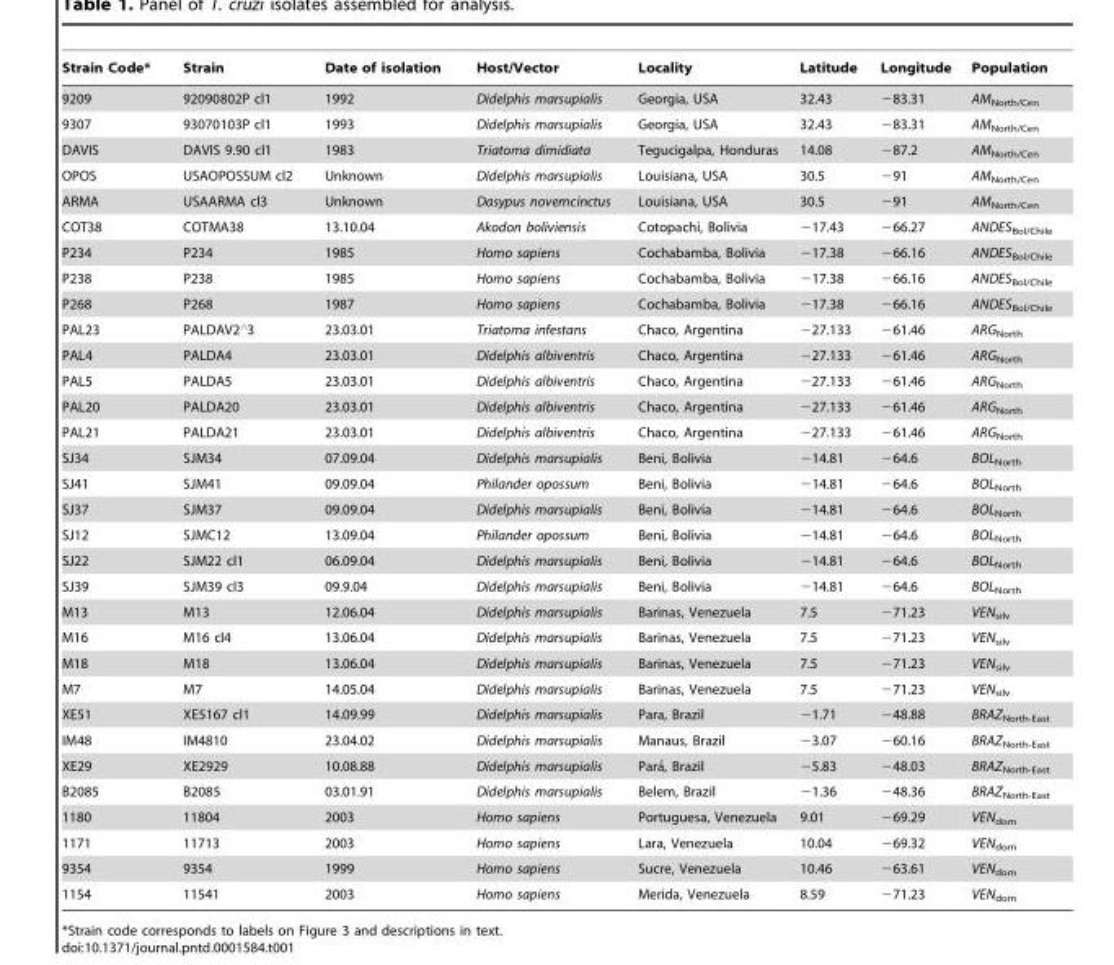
<table><thead><tr><td>Strain Code*</td><td>Strain</td><td>Date of isolation</td><td>Host/Vector</td><td>Locality</td><td>Latitude</td><td>Longitude</td><td>Population</td></tr></thead><tbody><tr><td>9209</td><td>92090802P cl1</td><td>1992</td><td>Didelphis marsupialis</td><td>Georgia, USA</td><td>32.43</td><td>−83.31</td><td>AM<sub>North/Cen</sub></td></tr><tr><td>9307</td><td>93070103P cl1</td><td>1993</td><td>Didelphis marsupialis</td><td>Georgia, USA</td><td>32.43</td><td>−83.31</td><td>AM<sub>North/Cen</sub></td></tr><tr><td>DAVIS</td><td>DAVIS 9.90 cl1</td><td>1983</td><td>Triatoma dimidiata</td><td>Tegucigalpa, Honduras</td><td>14.08</td><td>−87.2</td><td>AM<sub>North/Cen</sub></td></tr><tr><td>OPOS</td><td>USAOPOSSUM cl2</td><td>Unknown</td><td>Didelphis marsupialis</td><td>Louisiana, USA</td><td>30.5</td><td>−91</td><td>AM<sub>North/Cen</sub></td></tr><tr><td>ARMA</td><td>USAARMA cl3</td><td>Unknown</td><td>Dasypus novemcinctus</td><td>Louisiana, USA</td><td>30.5</td><td>−91</td><td>AM<sub>North/Cen</sub></td></tr><tr><td>COT38</td><td>COTMA38</td><td>13.10.04</td><td>Akodon boliviensis</td><td>Cotopachi, Bolivia</td><td>−17.43</td><td>−66.27</td><td>ANDES<sub>Bol/Chile</sub></td></tr><tr><td>P234</td><td>P234</td><td>1985</td><td>Homo sapiens</td><td>Cochabamba, Bolivia</td><td>−17.38</td><td>−66.16</td><td>ANDES<sub>Bol/Chile</sub></td></tr><tr><td>P238</td><td>P238</td><td>1985</td><td>Homo sapiens</td><td>Cochabamba, Bolivia</td><td>−17.38</td><td>−66.16</td><td>ANDES<sub>Bol/Chile</sub></td></tr><tr><td>P268</td><td>P268</td><td>1987</td><td>Homo sapiens</td><td>Cochabamba, Bolivia</td><td>−17.38</td><td>−66.16</td><td>ANDES<sub>Bol/Chile</sub></td></tr><tr><td>PAL23</td><td>PALDAV2‘3</td><td>23.03.01</td><td>Triatoma infestans</td><td>Chaco, Argentina</td><td>−27.133</td><td>−61.46</td><td>ARG<sub>North</sub></td></tr><tr><td>PAL4</td><td>PALDA4</td><td>23.03.01</td><td>Didelphis albiventris</td><td>Chaco, Argentina</td><td>−27.133</td><td>−61.46</td><td>ARG<sub>North</sub></td></tr><tr><td>PAL5</td><td>PALDA5</td><td>23.03.01</td><td>Didelphis albiventris</td><td>Chaco, Argentina</td><td>−27.133</td><td>−61.46</td><td>ARG<sub>North</sub></td></tr><tr><td>PAL20</td><td>PALDA20</td><td>23.03.01</td><td>Didelphis albiventris</td><td>Chaco, Argentina</td><td>−27.133</td><td>−61.46</td><td>ARG<sub>North</sub></td></tr><tr><td>PAL21</td><td>PALDA21</td><td>23.03.01</td><td>Didelphis albiventris</td><td>Chaco, Argentina</td><td>−27.133</td><td>−61.46</td><td>ARG<sub>North</sub></td></tr><tr><td>SJ34</td><td>SJM34</td><td>07.09.04</td><td>Didelphis marsupialis</td><td>Beni, Bolivia</td><td>−14.81</td><td>−64.6</td><td>BOL<sub>North</sub></td></tr><tr><td>SJ41</td><td>SJM41</td><td>09.09.04</td><td>Philander opossum</td><td>Beni, Bolivia</td><td>−14.81</td><td>−64.6</td><td>BOL<sub>North</sub></td></tr><tr><td>SJ37</td><td>SJM37</td><td>09.09.04</td><td>Didelphis marsupialis</td><td>Beni, Bolivia</td><td>−14.81</td><td>−64.6</td><td>BOL<sub>North</sub></td></tr><tr><td>SJ12</td><td>SJMC12</td><td>13.09.04</td><td>Philander opossum</td><td>Beni, Bolivia</td><td>−14.81</td><td>−64.6</td><td>BOL<sub>North</sub></td></tr><tr><td>SJ22</td><td>SJM22 cl1</td><td>06.09.04</td><td>Didelphis marsupialis</td><td>Beni, Bolivia</td><td>−14.81</td><td>−64.6</td><td>BOL<sub>North</sub></td></tr><tr><td>SJ39</td><td>SJM39 cl3</td><td>09.9.04</td><td>Didelphis marsupialis</td><td>Beni, Bolivia</td><td>−14.81</td><td>−64.6</td><td>BOL<sub>North</sub></td></tr><tr><td>M13</td><td>M13</td><td>12.06.04</td><td>Didelphis marsupialis</td><td>Barinas, Venezuela</td><td>7.5</td><td>−71.23</td><td>VEN<sub>silv</sub></td></tr><tr><td>M16</td><td>M16 cl4</td><td>13.06.04</td><td>Didelphis marsupialis</td><td>Barinas, Venezuela</td><td>7.5</td><td>−71.23</td><td>VEN<sub>silv</sub></td></tr><tr><td>M18</td><td>M18</td><td>13.06.04</td><td>Didelphis marsupialis</td><td>Barinas, Venezuela</td><td>7.5</td><td>−71.23</td><td>VEN<sub>silv</sub></td></tr><tr><td>M7</td><td>M7</td><td>14.05.04</td><td>Didelphis marsupialis</td><td>Barinas, Venezuela</td><td>7.5</td><td>−71.23</td><td>VEN<sub>silv</sub></td></tr><tr><td>XE51</td><td>XE5167 cl1</td><td>14.09.99</td><td>Didelphis marsupialis</td><td>Para, Brazil</td><td>−1.71</td><td>−48.88</td><td>BRAZ<sub>North-East</sub></td></tr><tr><td>IM48</td><td>IM4810</td><td>23.04.02</td><td>Didelphis marsupialis</td><td>Manaus, Brazil</td><td>−3.07</td><td>−60.16</td><td>BRAZ<sub>North-East</sub></td></tr><tr><td>XE29</td><td>XE2929</td><td>10.08.88</td><td>Didelphis marsupialis</td><td>Para´, Brazil</td><td>−5.83</td><td>−48.03</td><td>BRAZ<sub>North-East</sub></td></tr><tr><td>B2085</td><td>B2085</td><td>03.01.91</td><td>Didelphis marsupialis</td><td>Belem, Brazil</td><td>−1.36</td><td>−48.36</td><td>BRAZ<sub>North-East</sub></td></tr><tr><td>1180</td><td>11804</td><td>2003</td><td>Homo sapiens</td><td>Portuguesa, Venezuela</td><td>9.01</td><td>−69.29</td><td>VEN<sub>dom</sub></td></tr><tr><td>1171</td><td>11713</td><td>2003</td><td>Homo sapiens</td><td>Lara, Venezuela</td><td>10.04</td><td>−69.32</td><td>VEN<sub>dom</sub></td></tr><tr><td>9354</td><td>9354</td><td>1999</td><td>Homo sapiens</td><td>Sucre, Venezuela</td><td>10.46</td><td>−63.61</td><td>VEN<sub>dom</sub></td></tr><tr><td>1154</td><td>11541</td><td>2003</td><td>Homo sapiens</td><td>Merida, Venezuela</td><td>8.59</td><td>−71.23</td><td>VEN<sub>dom</sub></td></tr></tbody></table>